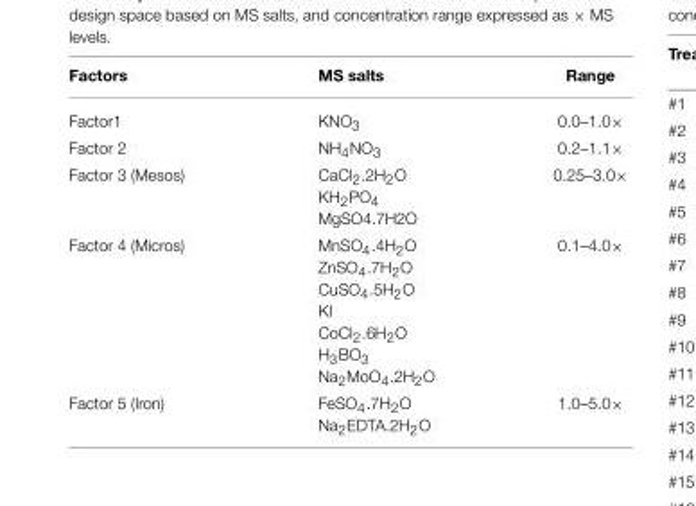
<table><thead><tr><td>Factors</td><td>MS salts</td><td>Range</td></tr></thead><tbody><tr><td>Factor1</td><td>KNO<sub>3</sub></td><td>0.0–1.0×</td></tr><tr><td>Factor 2</td><td>NH<sub>4</sub>NO<sub>3</sub></td><td>0.2–1.1×</td></tr><tr><td>Factor 3 (Mesos)</td><td>CaCl<sub>2</sub>.2H<sub>2</sub>O KH<sub>2</sub>PO<sub>4</sub> MgSO4.7H2O</td><td>0.25–3.0×</td></tr><tr><td>Factor 4 (Micros)</td><td>MnSO<sub>4</sub>.4H<sub>2</sub>O ZnSO<sub>4</sub>.7H<sub>2</sub>O CuSO<sub>4</sub>.5H<sub>2</sub>O KI CoCl<sub>2</sub>.6H<sub>2</sub>O H<sub>3</sub>BO<sub>3</sub> Na<sub>2</sub>MoO<sub>4</sub>.2H<sub>2</sub>O</td><td>0.1–4.0×</td></tr><tr><td>Factor 5 (Iron)</td><td>FeSO<sub>4</sub>.7H<sub>2</sub>O Na<sub>2</sub>EDTA.2H<sub>2</sub>O</td><td>1.0–5.0×</td></tr></tbody></table>